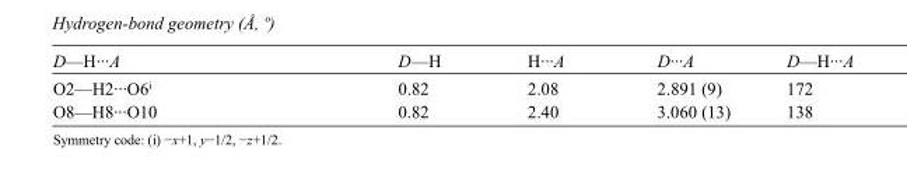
<table><tbody><tr><td>D—H···A</td><td>D—H</td><td>H···A</td><td>D···A</td><td>D—H···A</td></tr><tr><td>O2—H2···O6<sup>i</sup></td><td>0.82</td><td>2.08</td><td>2.891 (9)</td><td>172</td></tr><tr><td>O8—H8···O10</td><td>0.82</td><td>2.40</td><td>3.060 (13)</td><td>138</td></tr></tbody></table>